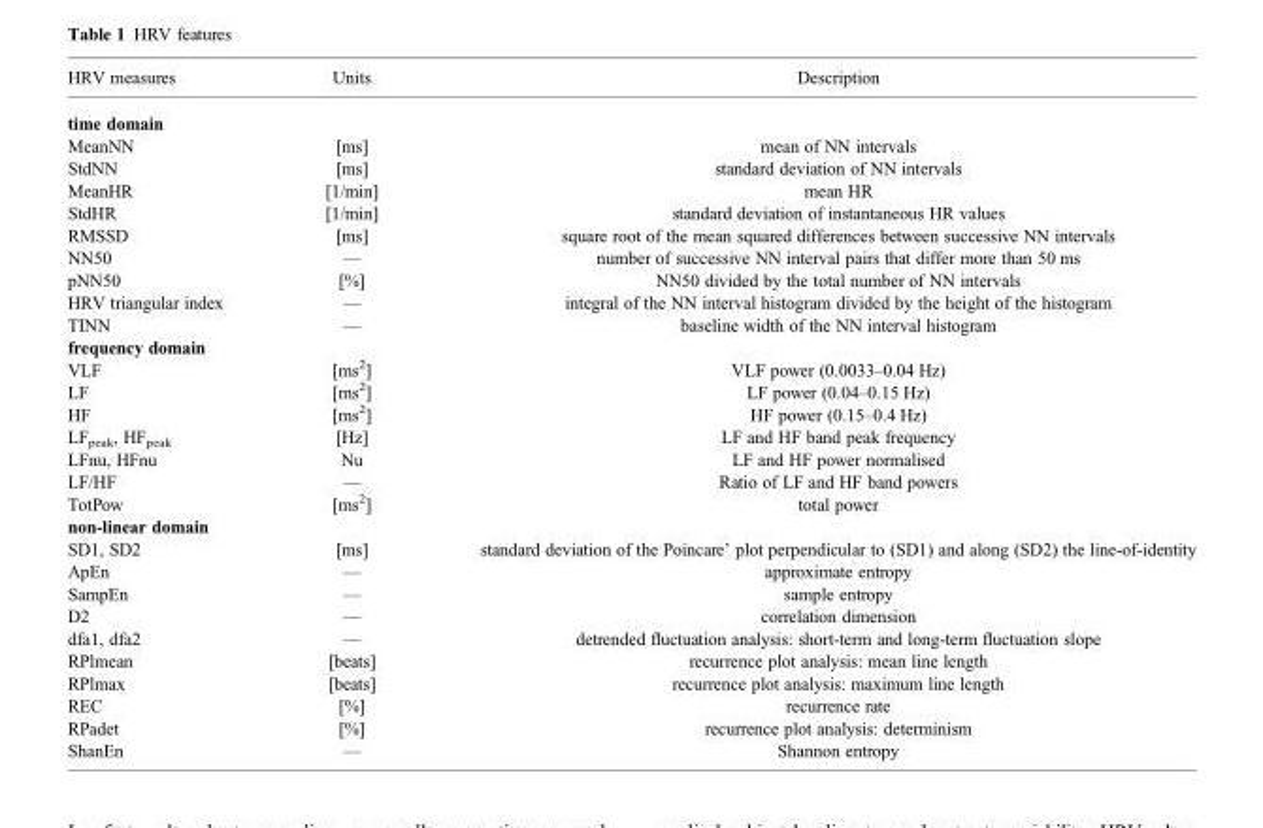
<table><thead><tr><td>HRV measures</td><td>Units</td><td>Description</td></tr></thead><tbody><tr><td colspan="3">time domain</td></tr><tr><td>MeanNN</td><td>[ms]</td><td>mean of NN intervals</td></tr><tr><td>StdNN</td><td>[ms]</td><td>standard deviation of NN intervals</td></tr><tr><td>MeanHR</td><td>[1/min]</td><td>mean HR</td></tr><tr><td>StdHR</td><td>[1/min]</td><td>standard deviation of instantaneous HR values</td></tr><tr><td>RMSSD</td><td>[ms]</td><td>square root of the mean squared differences between successive NN intervals</td></tr><tr><td>NN50</td><td>—</td><td>number of successive NN interval pairs that differ more than 50 ms</td></tr><tr><td>pNN50</td><td>[%]</td><td>NN50 divided by the total number of NN intervals</td></tr><tr><td>HRV triangular index</td><td>—</td><td>integral of the NN interval histogram divided by the height of the histogram</td></tr><tr><td>TINN</td><td>—</td><td>baseline width of the NN interval histogram</td></tr><tr><td colspan="3">frequency domain</td></tr><tr><td>VLF</td><td>[ms<sup>2</sup>]</td><td>VLF power (0.0033–0.04 Hz)</td></tr><tr><td>LF</td><td>[ms<sup>2</sup>]</td><td>LF power (0.04–0.15 Hz)</td></tr><tr><td>HF</td><td>[ms<sup>2</sup>]</td><td>HF power (0.15–0.4 Hz)</td></tr><tr><td>LF<sub>peak</sub>, HF<sub>peak</sub></td><td>[Hz]</td><td>LF and HF band peak frequency</td></tr><tr><td>LFnu, HFnu</td><td>Nu</td><td>LF and HF power normalised</td></tr><tr><td>LF/HF</td><td>—</td><td>Ratio of LF and HF band powers</td></tr><tr><td>TotPow</td><td>[ms<sup>2</sup>]</td><td>total power</td></tr><tr><td colspan="3">non-linear domain</td></tr><tr><td>SD1, SD2</td><td>[ms]</td><td>standard deviation of the Poincare’ plot perpendicular to (SD1) and along (SD2) the line-of-identity</td></tr><tr><td>ApEn</td><td>—</td><td>approximate entropy</td></tr><tr><td>SampEn</td><td>—</td><td>sample entropy</td></tr><tr><td>D2</td><td>—</td><td>correlation dimension</td></tr><tr><td>dfa1, dfa2</td><td>—</td><td>detrended fluctuation analysis: short-term and long-term fluctuation slope</td></tr><tr><td>RPlmean</td><td>[beats]</td><td>recurrence plot analysis: mean line length</td></tr><tr><td>RPlmax</td><td>[beats]</td><td>recurrence plot analysis: maximum line length</td></tr><tr><td>REC</td><td>[%]</td><td>recurrence rate</td></tr><tr><td>RPadet</td><td>[%]</td><td>recurrence plot analysis: determinism</td></tr><tr><td>ShanEn</td><td>—</td><td>Shannon entropy</td></tr></tbody></table>